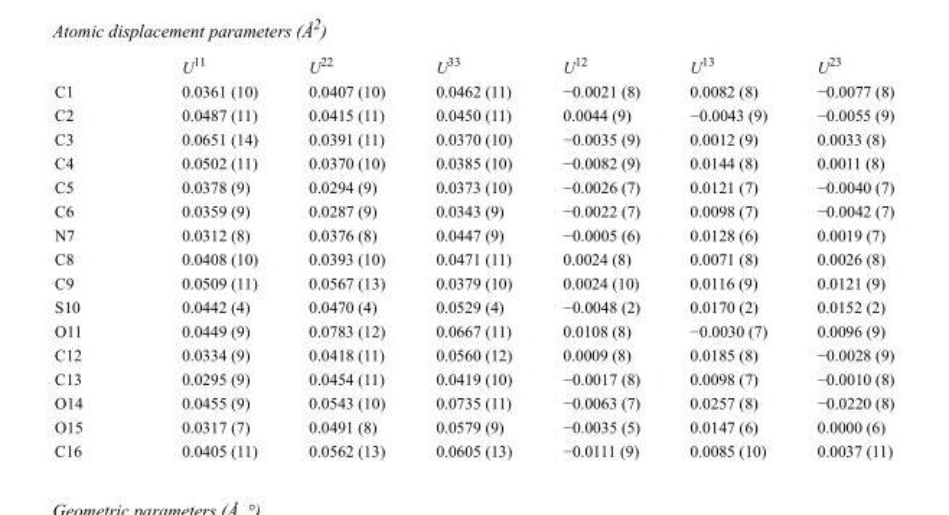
<table><thead><tr><td></td><td>U<sup>11</sup></td><td>U<sup>22</sup></td><td>U<sup>33</sup></td><td>U<sup>12</sup></td><td>U<sup>13</sup></td><td>U<sup>23</sup></td></tr></thead><tbody><tr><td>C1</td><td>0.0361 (10)</td><td>0.0407 (10)</td><td>0.0462 (11)</td><td>−0.0021 (8)</td><td>0.0082 (8)</td><td>−0.0077 (8)</td></tr><tr><td>C2</td><td>0.0487 (11)</td><td>0.0415 (11)</td><td>0.0450 (11)</td><td>0.0044 (9)</td><td>−0.0043 (9)</td><td>−0.0055 (9)</td></tr><tr><td>C3</td><td>0.0651 (14)</td><td>0.0391 (11)</td><td>0.0370 (10)</td><td>−0.0035 (9)</td><td>0.0012 (9)</td><td>0.0033 (8)</td></tr><tr><td>C4</td><td>0.0502 (11)</td><td>0.0370 (10)</td><td>0.0385 (10)</td><td>−0.0082 (9)</td><td>0.0144 (8)</td><td>0.0011 (8)</td></tr><tr><td>C5</td><td>0.0378 (9)</td><td>0.0294 (9)</td><td>0.0373 (10)</td><td>−0.0026 (7)</td><td>0.0121 (7)</td><td>−0.0040 (7)</td></tr><tr><td>C6</td><td>0.0359 (9)</td><td>0.0287 (9)</td><td>0.0343 (9)</td><td>−0.0022 (7)</td><td>0.0098 (7)</td><td>−0.0042 (7)</td></tr><tr><td>N7</td><td>0.0312 (8)</td><td>0.0376 (8)</td><td>0.0447 (9)</td><td>−0.0005 (6)</td><td>0.0128 (6)</td><td>0.0019 (7)</td></tr><tr><td>C8</td><td>0.0408 (10)</td><td>0.0393 (10)</td><td>0.0471 (11)</td><td>0.0024 (8)</td><td>0.0071 (8)</td><td>0.0026 (8)</td></tr><tr><td>C9</td><td>0.0509 (11)</td><td>0.0567 (13)</td><td>0.0379 (10)</td><td>0.0024 (10)</td><td>0.0116 (9)</td><td>0.0121 (9)</td></tr><tr><td>S10</td><td>0.0442 (4)</td><td>0.0470 (4)</td><td>0.0529 (4)</td><td>−0.0048 (2)</td><td>0.0170 (2)</td><td>0.0152 (2)</td></tr><tr><td>O11</td><td>0.0449 (9)</td><td>0.0783 (12)</td><td>0.0667 (11)</td><td>0.0108 (8)</td><td>−0.0030 (7)</td><td>0.0096 (9)</td></tr><tr><td>C12</td><td>0.0334 (9)</td><td>0.0418 (11)</td><td>0.0560 (12)</td><td>0.0009 (8)</td><td>0.0185 (8)</td><td>−0.0028 (9)</td></tr><tr><td>C13</td><td>0.0295 (9)</td><td>0.0454 (11)</td><td>0.0419 (10)</td><td>−0.0017 (8)</td><td>0.0098 (7)</td><td>−0.0010 (8)</td></tr><tr><td>O14</td><td>0.0455 (9)</td><td>0.0543 (10)</td><td>0.0735 (11)</td><td>−0.0063 (7)</td><td>0.0257 (8)</td><td>−0.0220 (8)</td></tr><tr><td>O15</td><td>0.0317 (7)</td><td>0.0491 (8)</td><td>0.0579 (9)</td><td>−0.0035 (5)</td><td>0.0147 (6)</td><td>0.0000 (6)</td></tr><tr><td>C16</td><td>0.0405 (11)</td><td>0.0562 (13)</td><td>0.0605 (13)</td><td>−0.0111 (9)</td><td>0.0085 (10)</td><td>0.0037 (11)</td></tr></tbody></table>